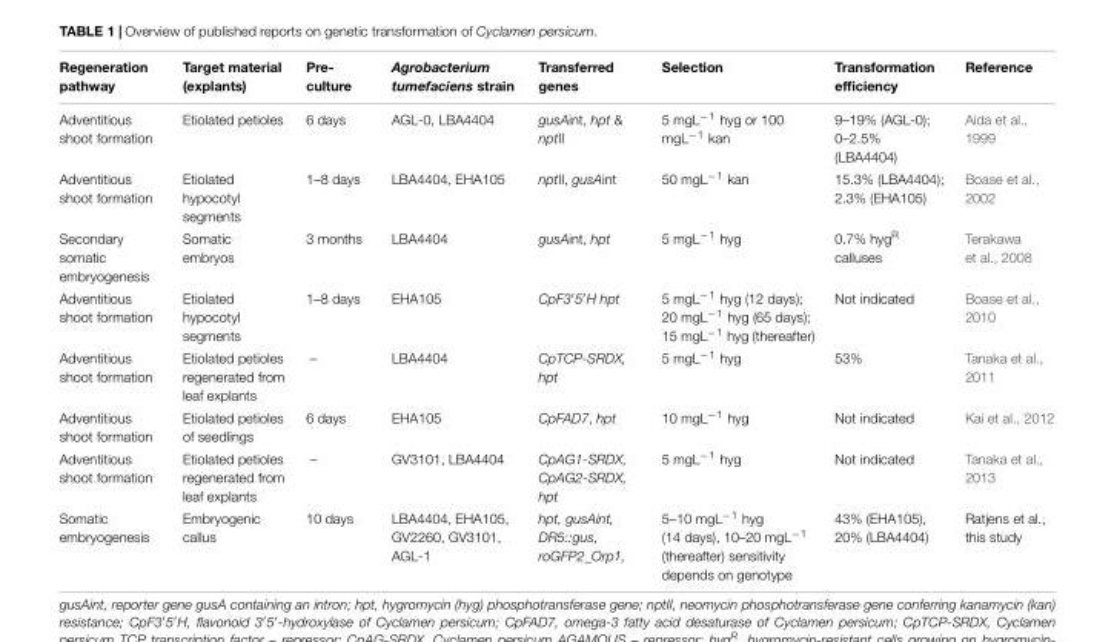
<table><thead><tr><td>Regeneration pathway</td><td>Target material (explants)</td><td>Pre- culture</td><td>Agrobacterium tumefaciens strain</td><td>Transferred genes</td><td>Selection</td><td>Transformation efficiency</td><td>Reference</td></tr></thead><tbody><tr><td>Adventitious shoot formation</td><td>Etiolated petioles</td><td>6 days</td><td>AGL-0, LBA4404</td><td>gusAint, hpt &amp; nptII</td><td>5 mgL<sup>−1</sup> hyg or 100 mgL<sup>−1</sup> kan</td><td>9–19% (AGL-0); 0–2.5% (LBA4404)</td><td>Aida et al., 1999</td></tr><tr><td>Adventitious shoot formation</td><td>Etiolated hypocotyl segments</td><td>1–8 days</td><td>LBA4404, EHA105</td><td>nptII, gusAint</td><td>50 mgL<sup>−1</sup> kan</td><td>15.3% (LBA4404); 2.3% (EHA105)</td><td>Boase et al., 2002</td></tr><tr><td>Secondary somatic embryogenesis</td><td>Somatic embryos</td><td>3 months</td><td>LBA4404</td><td>gusAint, hpt</td><td>5 mgL<sup>−1</sup> hyg</td><td>0.7% hyg<sup>R</sup> calluses</td><td>Terakawa et al., 2008</td></tr><tr><td>Adventitious shoot formation</td><td>Etiolated hypocotyl segments</td><td>1–8 days</td><td>EHA105</td><td>CpF3′5′H hpt</td><td>5 mgL<sup>−1</sup> hyg (12 days); 20 mgL<sup>−1</sup> hyg (65 days); 15 mgL<sup>−1</sup> hyg (thereafter)</td><td>Not indicated</td><td>Boase et al., 2010</td></tr><tr><td>Adventitious shoot formation</td><td>Etiolated petioles regenerated from leaf explants</td><td>–</td><td>LBA4404</td><td>CpTCP-SRDX, hpt</td><td>5 mgL<sup>−1</sup> hyg</td><td>53%</td><td>Tanaka et al., 2011</td></tr><tr><td>Adventitious shoot formation</td><td>Etiolated petioles of seedlings</td><td>6 days</td><td>EHA105</td><td>CpFAD7, hpt</td><td>10 mgL<sup>−1</sup> hyg</td><td>Not indicated</td><td>Kai et al., 2012</td></tr><tr><td>Adventitious shoot formation</td><td>Etiolated petioles regenerated from leaf explants</td><td>–</td><td>GV3101, LBA4404</td><td>CpAG1-SRDX, CpAG2-SRDX, hpt</td><td>5 mgL<sup>−1</sup> hyg</td><td>Not indicated</td><td>Tanaka et al., 2013</td></tr><tr><td>Somatic embryogenesis</td><td>Embryogenic callus</td><td>10 days</td><td>LBA4404, EHA105, GV2260, GV3101, AGL-1</td><td>hpt, gusAint, DR5::gus, roGFP2_Orp1,</td><td>5–10 mgL<sup>−1</sup> hyg (14 days), 10–20 mgL<sup>−1</sup> (thereafter) sensitivity depends on genotype</td><td>43% (EHA105), 20% (LBA4404)</td><td>Ratjens et al., this study</td></tr></tbody></table>